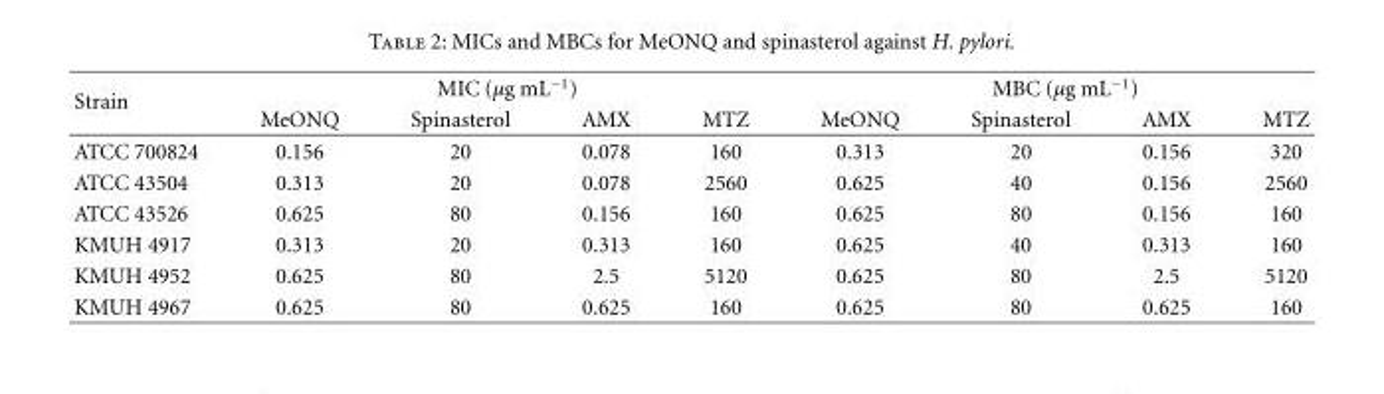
<table><thead><tr><td rowspan="2">Strain</td><td colspan="4">MIC (μg mL<sup>−1</sup>)</td><td colspan="4">MBC (μg mL<sup>−1</sup>)</td></tr><tr><td>MeONQ</td><td>Spinasterol</td><td>AMX</td><td>MTZ</td><td>MeONQ</td><td>Spinasterol</td><td>AMX</td><td>MTZ</td></tr></thead><tbody><tr><td>ATCC 700824</td><td>0.156</td><td>20</td><td>0.078</td><td>160</td><td>0.313</td><td>20</td><td>0.156</td><td>320</td></tr><tr><td>ATCC 43504</td><td>0.313</td><td>20</td><td>0.078</td><td>2560</td><td>0.625</td><td>40</td><td>0.156</td><td>2560</td></tr><tr><td>ATCC 43526</td><td>0.625</td><td>80</td><td>0.156</td><td>160</td><td>0.625</td><td>80</td><td>0.156</td><td>160</td></tr><tr><td>KMUH 4917</td><td>0.313</td><td>20</td><td>0.313</td><td>160</td><td>0.625</td><td>40</td><td>0.313</td><td>160</td></tr><tr><td>KMUH 4952</td><td>0.625</td><td>80</td><td>2.5</td><td>5120</td><td>0.625</td><td>80</td><td>2.5</td><td>5120</td></tr><tr><td>KMUH 4967</td><td>0.625</td><td>80</td><td>0.625</td><td>160</td><td>0.625</td><td>80</td><td>0.625</td><td>160</td></tr></tbody></table>